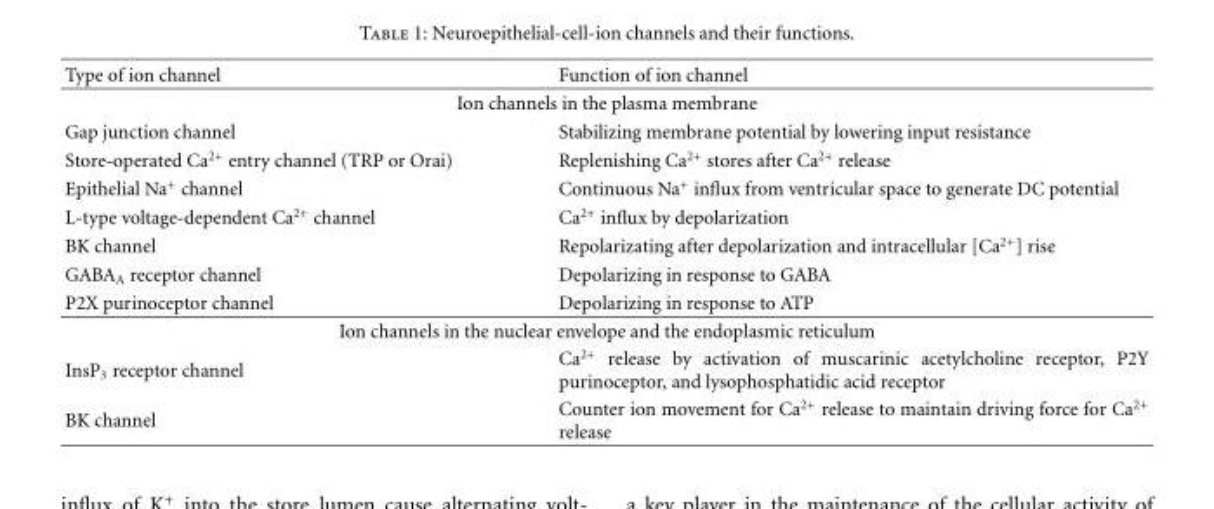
<table><thead><tr><td>Type of ion channel</td><td>Function of ion channel</td></tr></thead><tbody><tr><td colspan="2">Ion channels in the plasma membrane</td></tr><tr><td>Gap junction channel</td><td>Stabilizing membrane potential by lowering input resistance</td></tr><tr><td>Store-operated Ca<sup>2+</sup> entry channel (TRP or Orai)</td><td>Replenishing Ca<sup>2+</sup> stores after Ca<sup>2+</sup> release</td></tr><tr><td>Epithelial Na<sup>+</sup> channel</td><td>Continuous Na<sup>+</sup> influx from ventricular space to generate DC potential</td></tr><tr><td>L-type voltage-dependent Ca<sup>2+</sup> channel</td><td>Ca<sup>2+</sup> influx by depolarization</td></tr><tr><td>BK channel</td><td>Repolarizating after depolarization and intracellular [Ca<sup>2+</sup>] rise</td></tr><tr><td>GABA<sub>A</sub> receptor channel</td><td>Depolarizing in response to GABA</td></tr><tr><td>P2X purinoceptor channel</td><td>Depolarizing in response to ATP</td></tr><tr><td colspan="2">Ion channels in the nuclear envelope and the endoplasmic reticulum</td></tr><tr><td>InsP<sub>3</sub> receptor channel</td><td>Ca<sup>2+</sup> release by activation of muscarinic acetylcholine receptor, P2Y purinoceptor, and lysophosphatidic acid receptor</td></tr><tr><td>BK channel</td><td>Counter ion movement for Ca<sup>2+</sup> release to maintain driving force for Ca<sup>2+</sup> release</td></tr></tbody></table>